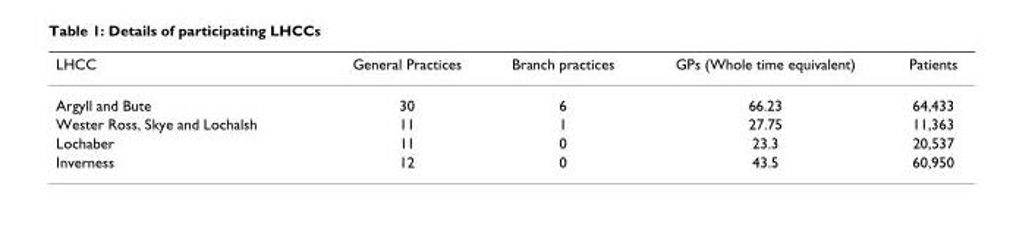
<table><thead><tr><td>LHCC</td><td>General Practices</td><td>Branch practices</td><td>GPs (Whole time equivalent)</td><td>Patients</td></tr></thead><tbody><tr><td>Argyll and Bute</td><td>30</td><td>6</td><td>66.23</td><td>64,433</td></tr><tr><td>Wester Ross, Skye and Lochalsh</td><td>11</td><td>1</td><td>27.75</td><td>11,363</td></tr><tr><td>Lochaber</td><td>11</td><td>0</td><td>23.3</td><td>20,537</td></tr><tr><td>Inverness</td><td>12</td><td>0</td><td>43.5</td><td>60,950</td></tr></tbody></table>